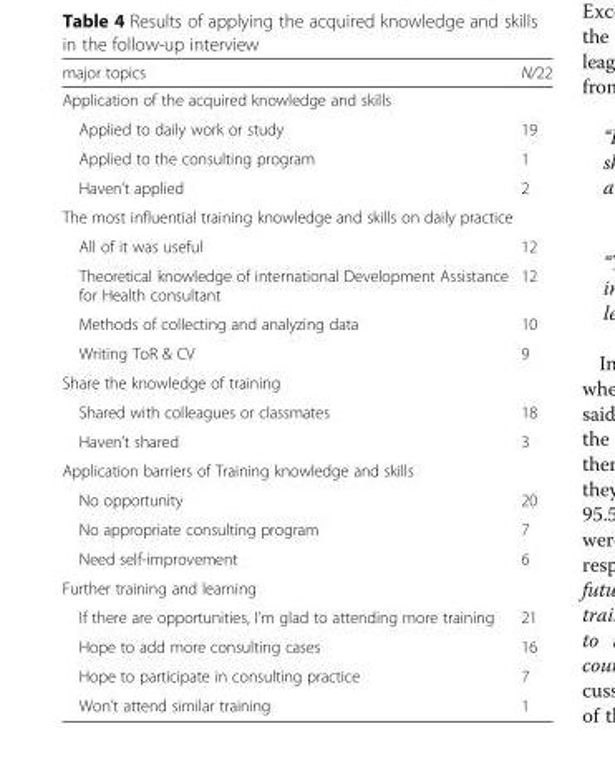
<table><thead><tr><td>major topics</td><td>N/22</td></tr></thead><tbody><tr><td colspan="2">Application of the acquired knowledge and skills</td></tr><tr><td>Applied to daily work or study</td><td>19</td></tr><tr><td>Applied to the consulting program</td><td>1</td></tr><tr><td>Haven’t applied</td><td>2</td></tr><tr><td colspan="2">The most influential training knowledge and skills on daily practice</td></tr><tr><td>All of it was useful</td><td>12</td></tr><tr><td>Theoretical knowledge of international Development Assistance for Health consultant</td><td>12</td></tr><tr><td>Methods of collecting and analyzing data</td><td>10</td></tr><tr><td>Writing ToR &amp; CV</td><td>9</td></tr><tr><td colspan="2">Share the knowledge of training</td></tr><tr><td>Shared with colleagues or classmates</td><td>18</td></tr><tr><td>Haven’t shared</td><td>3</td></tr><tr><td colspan="2">Application barriers of Training knowledge and skills</td></tr><tr><td>No opportunity</td><td>20</td></tr><tr><td>No appropriate consulting program</td><td>7</td></tr><tr><td>Need self-improvement</td><td>6</td></tr><tr><td colspan="2">Further training and learning</td></tr><tr><td>If there are opportunities, I’m glad to attending more training</td><td>21</td></tr><tr><td>Hope to add more consulting cases</td><td>16</td></tr><tr><td>Hope to participate in consulting practice</td><td>7</td></tr><tr><td>Won’t attend similar training</td><td>1</td></tr></tbody></table>